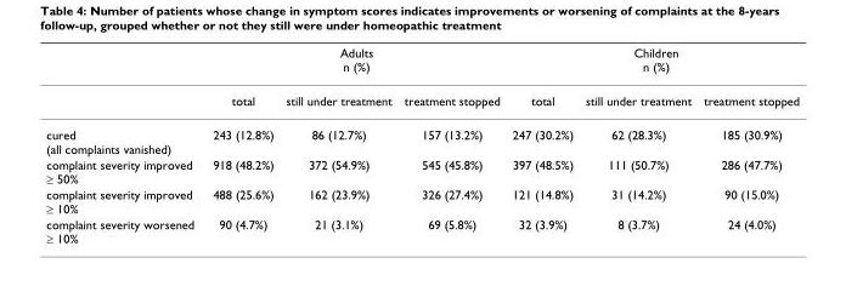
<table><thead><tr><td rowspan="2"></td><td colspan="3">Adults n (%)</td><td colspan="3">Children n (%)</td></tr><tr><td>total</td><td>still under treatment</td><td>treatment stopped</td><td>total</td><td>still under treatment</td><td>treatment stopped</td></tr></thead><tbody><tr><td>cured (all complaints vanished)</td><td>243 (12.8%)</td><td>86 (12.7%)</td><td>157 (13.2%)</td><td>247 (30.2%)</td><td>62 (28.3%)</td><td>185 (30.9%)</td></tr><tr><td>complaint severity improved ≥ 50%</td><td>918 (48.2%)</td><td>372 (54.9%)</td><td>545 (45.8%)</td><td>397 (48.5%)</td><td>111 (50.7%)</td><td>286 (47.7%)</td></tr><tr><td>complaint severity improved ≥ 10%</td><td>488 (25.6%)</td><td>162 (23.9%)</td><td>326 (27.4%)</td><td>121 (14.8%)</td><td>31 (14.2%)</td><td>90 (15.0%)</td></tr><tr><td>complaint severity worsened ≥ 10%</td><td>90 (4.7%)</td><td>21 (3.1%)</td><td>69 (5.8%)</td><td>32 (3.9%)</td><td>8 (3.7%)</td><td>24 (4.0%)</td></tr></tbody></table>